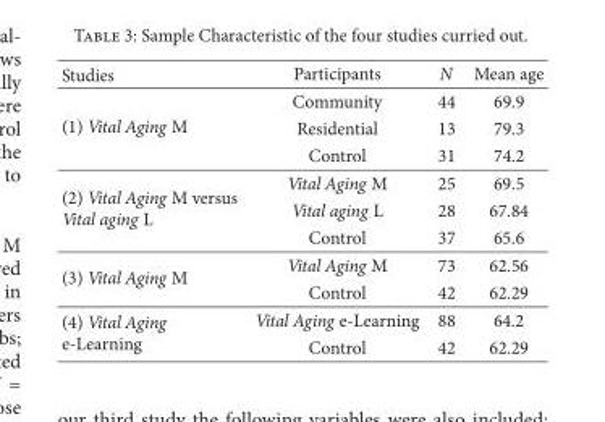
<table><thead><tr><td>Studies</td><td>Participants</td><td>N</td><td>Mean age</td></tr></thead><tbody><tr><td rowspan="3">(1) Vital Aging M</td><td>Community</td><td>44</td><td>69.9</td></tr><tr><td>Residential</td><td>13</td><td>79.3</td></tr><tr><td>Control</td><td>31</td><td>74.2</td></tr><tr><td rowspan="3">(2) Vital Aging M versus Vital aging L</td><td>Vital Aging M</td><td>25</td><td>69.5</td></tr><tr><td>Vital aging L</td><td>28</td><td>67.84</td></tr><tr><td>Control</td><td>37</td><td>65.6</td></tr><tr><td rowspan="2">(3) Vital Aging M</td><td>Vital Aging M</td><td>73</td><td>62.56</td></tr><tr><td>Control</td><td>42</td><td>62.29</td></tr><tr><td rowspan="2">(4) Vital Aging e-Learning</td><td>Vital Aging e-Learning</td><td>88</td><td>64.2</td></tr><tr><td>Control</td><td>42</td><td>62.29</td></tr></tbody></table>